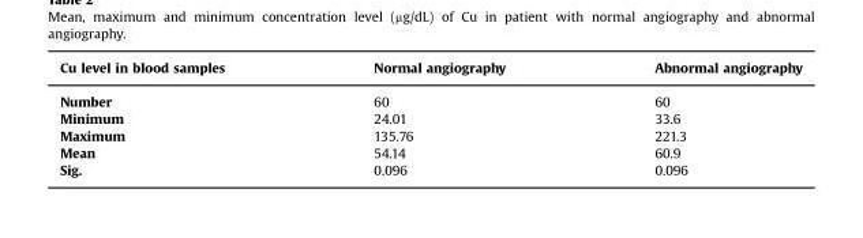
<table><thead><tr><td>Cu level in blood samples</td><td>Normal angiography</td><td>Abnormal angiography</td></tr></thead><tbody><tr><td>Number</td><td>60</td><td>60</td></tr><tr><td>Minimum</td><td>24.01</td><td>33.6</td></tr><tr><td>Maximum</td><td>135.76</td><td>221.3</td></tr><tr><td>Mean</td><td>54.14</td><td>60.9</td></tr><tr><td>Sig.</td><td>0.096</td><td>0.096</td></tr></tbody></table>